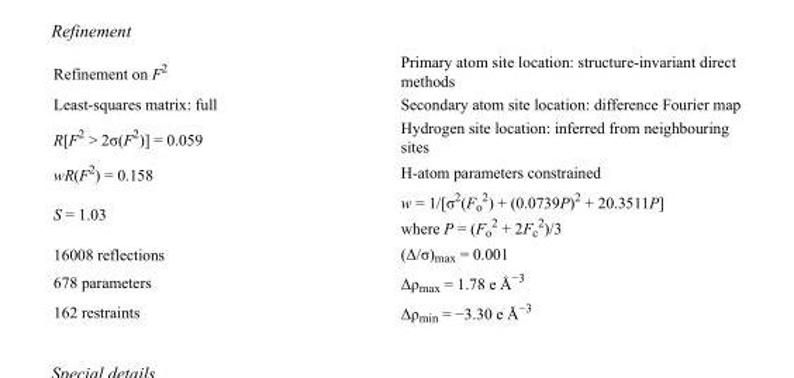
<table><tbody><tr><td>Refinement on F<sup>2</sup></td><td>Primary atom site location: structure-invariant direct methods</td></tr><tr><td>Least-squares matrix: full</td><td>Secondary atom site location: difference Fourier map</td></tr><tr><td>R[F<sup>2</sup> &gt; 2σ(F<sup>2</sup>)] = 0.059</td><td>Hydrogen site location: inferred from neighbouring sites</td></tr><tr><td>wR(F<sup>2</sup>) = 0.158</td><td>H-atom parameters constrained</td></tr><tr><td>S = 1.03</td><td>w = 1/[σ<sup>2</sup>(F<sub>o</sub> <sup>2</sup>) + (0.0739P)<sup>2</sup> + 20.3511P] where P = (F<sub>o</sub> <sup>2</sup> + 2F<sub>c</sub> <sup>2</sup>)/3</td></tr><tr><td>16008 reflections</td><td>(Δ/σ)<sub>max</sub> = 0.001</td></tr><tr><td>678 parameters</td><td>Δρ<sub>max</sub> = 1.78 e Å<sup>−3</sup></td></tr><tr><td>162 restraints</td><td>Δρ<sub>min</sub> = −3.30 e Å<sup>−3</sup></td></tr></tbody></table>